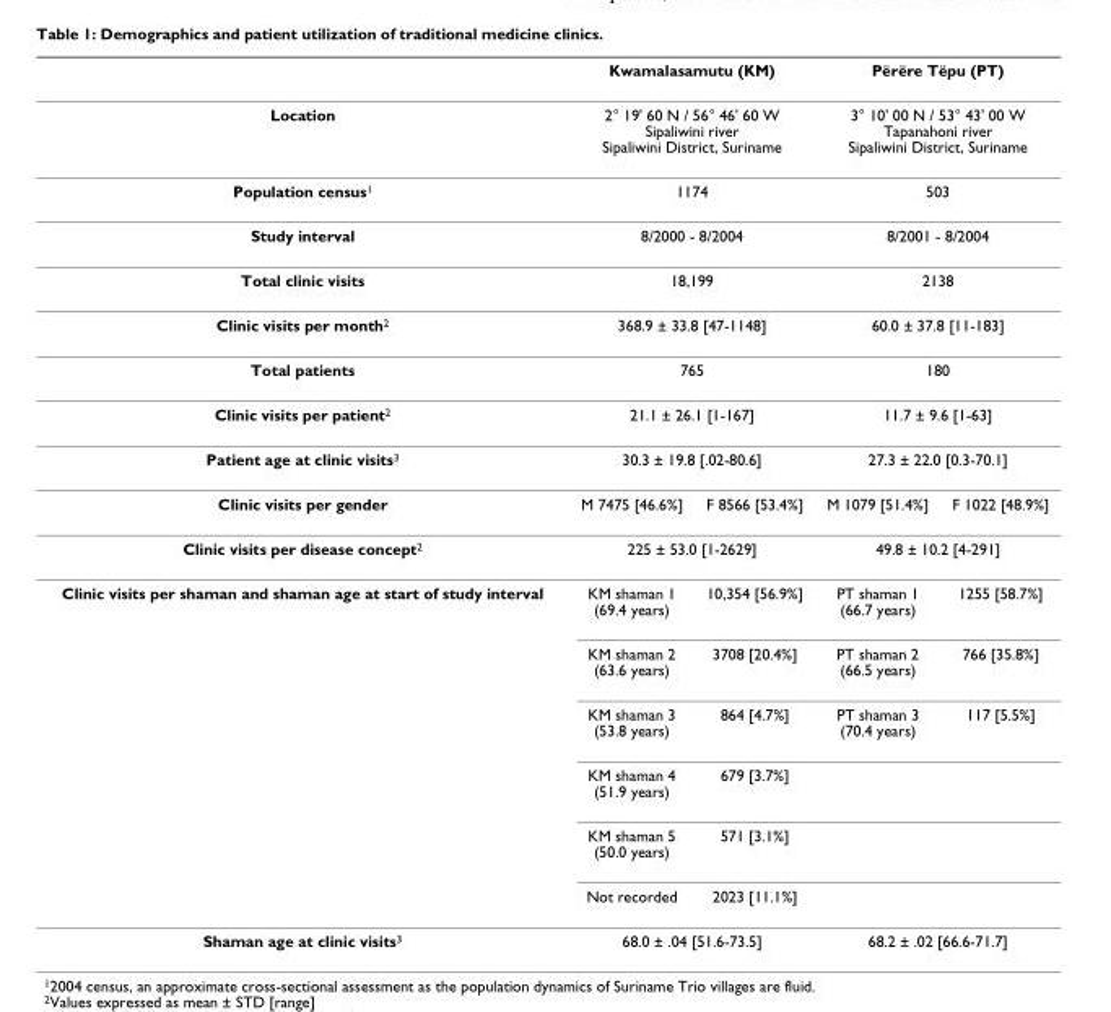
<table><thead><tr><td></td><td colspan="2">Kwamalasamutu (KM)</td><td colspan="2">Përëre Tëpu (PT)</td></tr></thead><tbody><tr><td>Location</td><td colspan="2">2° 19&#x27; 60 N / 56° 46&#x27; 60 W Sipaliwini river Sipaliwini District, Suriname</td><td colspan="2">3° 10&#x27; 00 N / 53° 43&#x27; 00 W Tapanahoni river Sipaliwini District, Suriname</td></tr><tr><td>Population census<sup>1</sup></td><td colspan="2">1174</td><td colspan="2">503</td></tr><tr><td>Study interval</td><td colspan="2">8/2000 - 8/2004</td><td colspan="2">8/2001 - 8/2004</td></tr><tr><td>Total clinic visits</td><td colspan="2">18,199</td><td colspan="2">2138</td></tr><tr><td>Clinic visits per month<sup>2</sup></td><td colspan="2">368.9 ± 33.8 [47-1148]</td><td colspan="2">60.0 ± 37.8 [11-183]</td></tr><tr><td>Total patients</td><td colspan="2">765</td><td colspan="2">180</td></tr><tr><td>Clinic visits per patient<sup>2</sup></td><td colspan="2">21.1 ± 26.1 [1-167]</td><td colspan="2">11.7 ± 9.6 [1-63]</td></tr><tr><td>Patient age at clinic visits<sup>3</sup></td><td colspan="2">30.3 ± 19.8 [.02-80.6]</td><td colspan="2">27.3 ± 22.0 [0.3-70.1]</td></tr><tr><td>Clinic visits per gender</td><td>M 7475 [46.6%]</td><td>F 8566 [53.4%]</td><td>M 1079 [51.4%]</td><td>F 1022 [48.9%]</td></tr><tr><td>Clinic visits per disease concept<sup>2</sup></td><td colspan="2">225 ± 53.0 [1-2629]</td><td colspan="2">49.8 ± 10.2 [4-291]</td></tr><tr><td rowspan="6">Clinic visits per shaman and shaman age at start of study interval</td><td>KM shaman 1 (69.4 years)</td><td>10,354 [56.9%]</td><td>PT shaman 1 (66.7 years)</td><td>1255 [58.7%]</td></tr><tr><td>KM shaman 2 (63.6 years)</td><td>3708 [20.4%]</td><td>PT shaman 2 (66.5 years)</td><td>766 [35.8%]</td></tr><tr><td>KM shaman 3 (53.8 years)</td><td>864 [4.7%]</td><td>PT shaman 3 (70.4 years)</td><td>117 [5.5%]</td></tr><tr><td>KM shaman 4 (51.9 years)</td><td>679 [3.7%]</td><td></td><td></td></tr><tr><td>KM shaman 5 (50.0 years)</td><td>571 [3.1%]</td><td></td><td></td></tr><tr><td>Not recorded</td><td>2023 [11.1%]</td><td></td><td></td></tr><tr><td>Shaman age at clinic visits<sup>3</sup></td><td colspan="2">68.0 ± .04 [51.6-73.5]</td><td colspan="2">68.2 ± .02 [66.6-71.7]</td></tr></tbody></table>